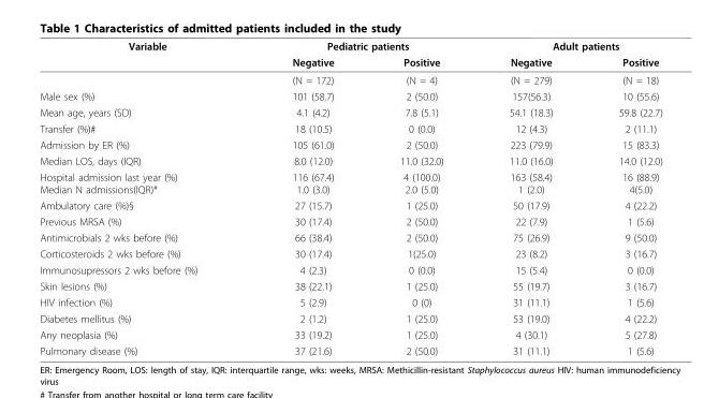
<table><thead><tr><td rowspan="2">Variable</td><td colspan="2">Pediatric patients</td><td colspan="2">Adult patients</td></tr><tr><td>Negative</td><td>Positive</td><td>Negative</td><td>Positive</td></tr></thead><tbody><tr><td></td><td>(N = 172)</td><td>(N = 4)</td><td>(N = 279)</td><td>(N = 18)</td></tr><tr><td>Male sex (%)</td><td>101 (58.7)</td><td>2 (50.0)</td><td>157(56.3)</td><td>10 (55.6)</td></tr><tr><td>Mean age, years (SD)</td><td>4.1 (4.2)</td><td>7.8 (5.1)</td><td>54.1 (18.3)</td><td>59.8 (22.7)</td></tr><tr><td>Transfer (%)#</td><td>18 (10.5)</td><td>0 (0.0)</td><td>12 (4.3)</td><td>2 (11.1)</td></tr><tr><td>Admission by ER (%)</td><td>105 (61.0)</td><td>2 (50.0)</td><td>223 (79.9)</td><td>15 (83.3)</td></tr><tr><td>Median LOS, days (IQR)</td><td>8.0 (12.0)</td><td>11.0 (32.0)</td><td>11.0 (16.0)</td><td>14.0 (12.0)</td></tr><tr><td>Hospital admission last year (%) Median N admissions(IQR)*</td><td>116 (67.4) 1.0 (3.0)</td><td>4 (100.0) 2.0 (5.0)</td><td>163 (58.4) 1 (2.0)</td><td>16 (88.9) 4(5.0)</td></tr><tr><td>Ambulatory care (%)§</td><td>27 (15.7)</td><td>1 (25.0)</td><td>50 (17.9)</td><td>4 (22.2)</td></tr><tr><td>Previous MRSA (%)</td><td>30 (17.4)</td><td>2 (50.0)</td><td>22 (7.9)</td><td>1 (5.6)</td></tr><tr><td>Antimicrobials 2 wks before (%)</td><td>66 (38.4)</td><td>2 (50.0)</td><td>75 (26.9)</td><td>9 (50.0)</td></tr><tr><td>Corticosteroids 2 wks before (%)</td><td>30 (17.4)</td><td>1(25.0)</td><td>23 (8.2)</td><td>3 (16.7)</td></tr><tr><td>Immunosupressors 2 wks before (%)</td><td>4 (2.3)</td><td>0 (0.0)</td><td>15 (5.4)</td><td>0 (0.0)</td></tr><tr><td>Skin lesions (%)</td><td>38 (22.1)</td><td>1 (25.0)</td><td>55 (19.7)</td><td>3 (16.7)</td></tr><tr><td>HIV infection (%)</td><td>5 (2.9)</td><td>0 (0)</td><td>31 (11.1)</td><td>1 (5.6)</td></tr><tr><td>Diabetes mellitus (%)</td><td>2 (1.2)</td><td>1 (25.0)</td><td>53 (19.0)</td><td>4 (22.2)</td></tr><tr><td>Any neoplasia (%)</td><td>33 (19.2)</td><td>1 (25.0)</td><td>4 (30.1)</td><td>5 (27.8)</td></tr><tr><td>Pulmonary disease (%)</td><td>37 (21.6)</td><td>2 (50.0)</td><td>31 (11.1)</td><td>1 (5.6)</td></tr></tbody></table>